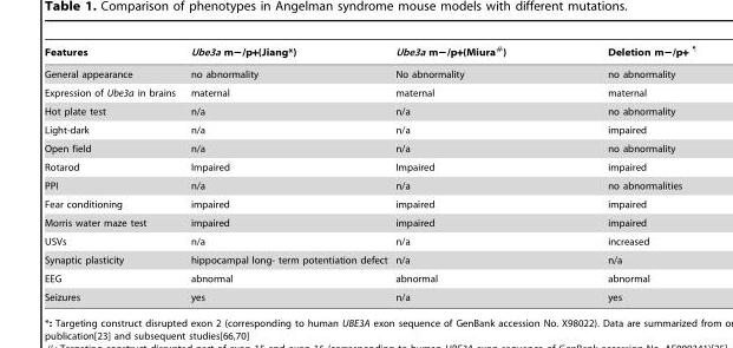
<table><thead><tr><td>Features</td><td>Ube3a m−/p+(Jiang*)</td><td>Ube3a m−/p+(Miura<sup>#</sup>)</td><td>Deletion m2/p+</td></tr></thead><tbody><tr><td>General appearance</td><td>no abnormality</td><td>No abnormality</td><td>no abnormality</td></tr><tr><td>Expression of Ube3a in brains</td><td>maternal</td><td>maternal</td><td>maternal</td></tr><tr><td>Hot plate test</td><td>n/a</td><td>n/a</td><td>no abnormality</td></tr><tr><td>Light-dark</td><td>n/a</td><td>n/a</td><td>impaired</td></tr><tr><td>Open field</td><td>n/a</td><td>n/a</td><td>no abnormality</td></tr><tr><td>Rotarod</td><td>Impaired</td><td>Impaired</td><td>impaired</td></tr><tr><td>PPI</td><td>n/a</td><td>n/a</td><td>no abnormalities</td></tr><tr><td>Fear conditioning</td><td>impaired</td><td>impaired</td><td>impaired</td></tr><tr><td>Morris water maze test</td><td>impaired</td><td>impaired</td><td>impaired</td></tr><tr><td>USVs</td><td>n/a</td><td>n/a</td><td>increased</td></tr><tr><td>Synaptic plasticity</td><td>hippocampal long- term potentiation defect</td><td>n/a</td><td>n/a</td></tr><tr><td>EEG</td><td>abnormal</td><td>abnormal</td><td>abnormal</td></tr><tr><td>Seizures</td><td>yes</td><td>n/a</td><td>yes</td></tr></tbody></table>